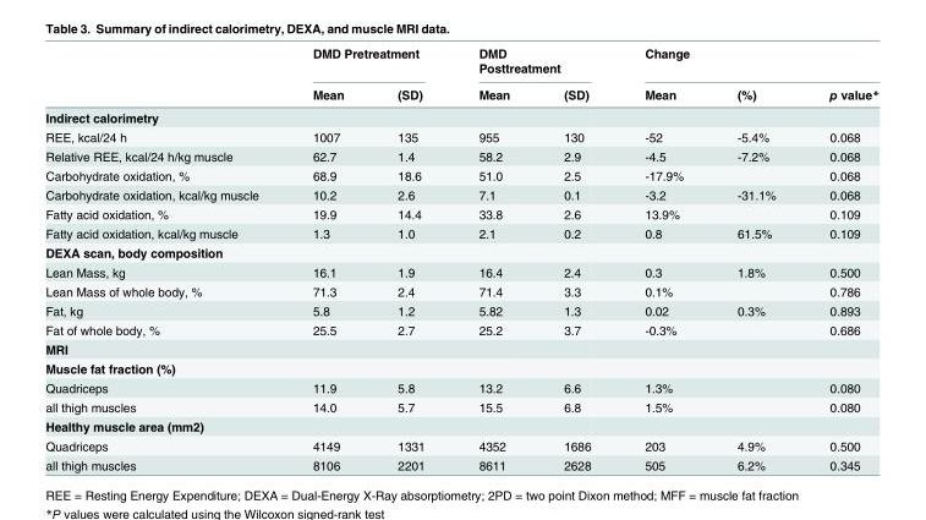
<table><thead><tr><td rowspan="2"></td><td colspan="2">DMD Pretreatment</td><td colspan="2">DMD Posttreatment</td><td colspan="3">Change</td></tr><tr><td>Mean</td><td>(SD)</td><td>Mean</td><td>(SD)</td><td>Mean</td><td>(%)</td><td>p value*</td></tr></thead><tbody><tr><td colspan="8">Indirect calorimetry</td></tr><tr><td>REE, kcal/24 h</td><td>1007</td><td>135</td><td>955</td><td>130</td><td>-52</td><td>-5.4%</td><td>0.068</td></tr><tr><td>Relative REE, kcal/24 h/kg muscle</td><td>62.7</td><td>1.4</td><td>58.2</td><td>2.9</td><td>-4.5</td><td>-7.2%</td><td>0.068</td></tr><tr><td>Carbohydrate oxidation, %</td><td>68.9</td><td>18.6</td><td>51.0</td><td>2.5</td><td>-17.9%</td><td></td><td>0.068</td></tr><tr><td>Carbohydrate oxidation, kcal/kg muscle</td><td>10.2</td><td>2.6</td><td>7.1</td><td>0.1</td><td>-3.2</td><td>-31.1%</td><td>0.068</td></tr><tr><td>Fatty acid oxidation, %</td><td>19.9</td><td>14.4</td><td>33.8</td><td>2.6</td><td>13.9%</td><td></td><td>0.109</td></tr><tr><td>Fatty acid oxidation, kcal/kg muscle</td><td>1.3</td><td>1.0</td><td>2.1</td><td>0.2</td><td>0.8</td><td>61.5%</td><td>0.109</td></tr><tr><td colspan="8">DEXA scan, body composition</td></tr><tr><td>Lean Mass, kg</td><td>16.1</td><td>1.9</td><td>16.4</td><td>2.4</td><td>0.3</td><td>1.8%</td><td>0.500</td></tr><tr><td>Lean Mass of whole body, %</td><td>71.3</td><td>2.4</td><td>71.4</td><td>3.3</td><td>0.1%</td><td></td><td>0.786</td></tr><tr><td>Fat, kg</td><td>5.8</td><td>1.2</td><td>5.82</td><td>1.3</td><td>0.02</td><td>0.3%</td><td>0.893</td></tr><tr><td>Fat of whole body, %</td><td>25.5</td><td>2.7</td><td>25.2</td><td>3.7</td><td>-0.3%</td><td></td><td>0.686</td></tr><tr><td colspan="8">MRI</td></tr><tr><td colspan="8">Muscle fat fraction (%)</td></tr><tr><td>Quadriceps</td><td>11.9</td><td>5.8</td><td>13.2</td><td>6.6</td><td>1.3%</td><td></td><td>0.080</td></tr><tr><td>all thigh muscles</td><td>14.0</td><td>5.7</td><td>15.5</td><td>6.8</td><td>1.5%</td><td></td><td>0.080</td></tr><tr><td colspan="8">Healthy muscle area (mm2)</td></tr><tr><td>Quadriceps</td><td>4149</td><td>1331</td><td>4352</td><td>1686</td><td>203</td><td>4.9%</td><td>0.500</td></tr><tr><td>all thigh muscles</td><td>8106</td><td>2201</td><td>8611</td><td>2628</td><td>505</td><td>6.2%</td><td>0.345</td></tr></tbody></table>